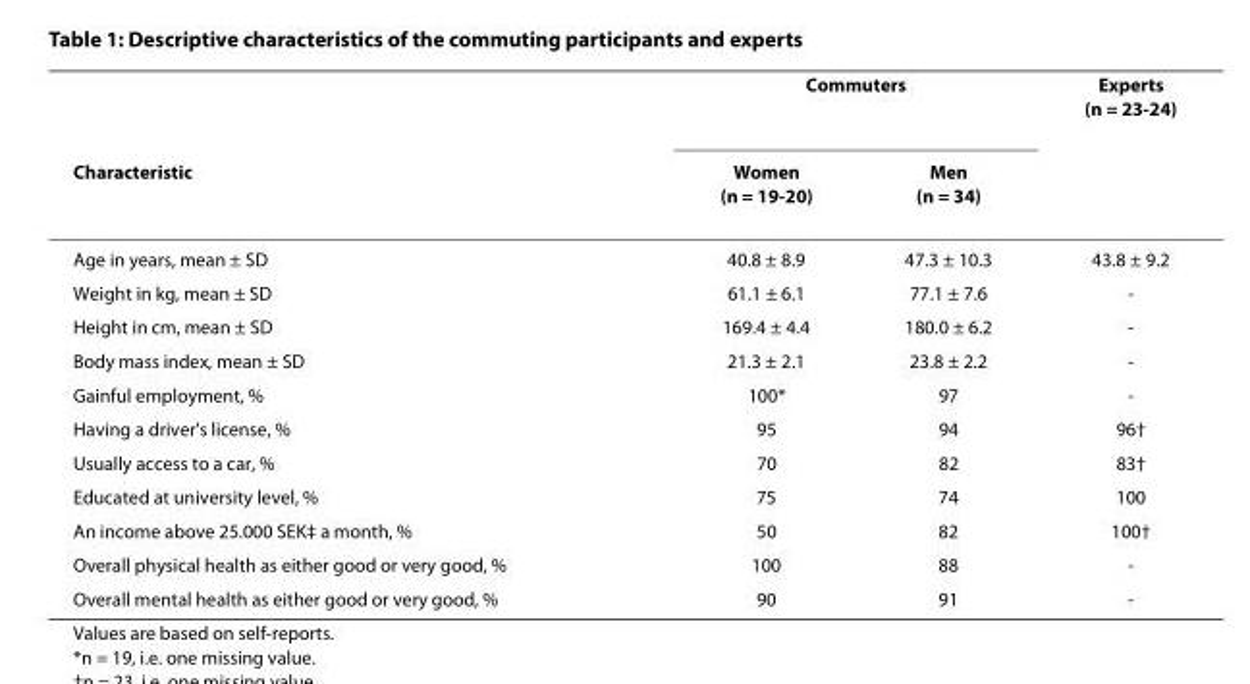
<table><thead><tr><td rowspan="2">Characteristic</td><td colspan="2">Commuters</td><td rowspan="2">Experts (n = 23-24)</td></tr><tr><td>Women (n = 19-20)</td><td>Men (n = 34)</td></tr></thead><tbody><tr><td>Age in years, mean ± SD</td><td>40.8 ± 8.9</td><td>47.3 ± 10.3</td><td>43.8 ± 9.2</td></tr><tr><td>Weight in kg, mean ± SD</td><td>61.1 ± 6.1</td><td>77.1 ± 7.6</td><td>-</td></tr><tr><td>Height in cm, mean ± SD</td><td>169.4 ± 4.4</td><td>180.0 ± 6.2</td><td>-</td></tr><tr><td>Body mass index, mean ± SD</td><td>21.3 ± 2.1</td><td>23.8 ± 2.2</td><td>-</td></tr><tr><td>Gainful employment, %</td><td>100*</td><td>97</td><td>-</td></tr><tr><td>Having a driver&#x27;s license, %</td><td>95</td><td>94</td><td>96†</td></tr><tr><td>Usually access to a car, %</td><td>70</td><td>82</td><td>83†</td></tr><tr><td>Educated at university level, %</td><td>75</td><td>74</td><td>100</td></tr><tr><td>An income above 25.000 SEK‡ a month, %</td><td>50</td><td>82</td><td>100†</td></tr><tr><td>Overall physical health as either good or very good, %</td><td>100</td><td>88</td><td>-</td></tr><tr><td>Overall mental health as either good or very good, %</td><td>90</td><td>91</td><td>-</td></tr></tbody></table>